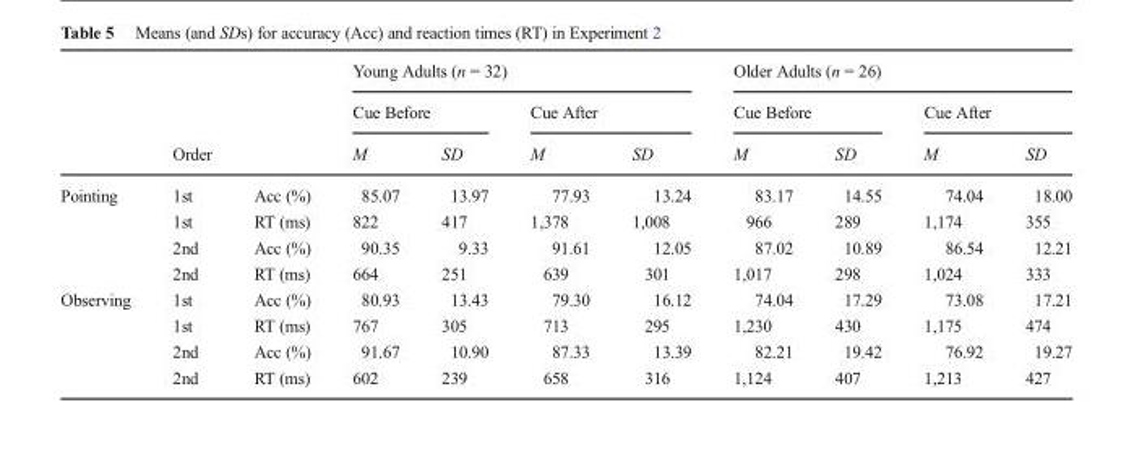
<table><thead><tr><td rowspan="3"></td><td rowspan="3">Order</td><td rowspan="3"></td><td colspan="4">Young Adults (n = 32)</td><td colspan="4">Older Adults (n = 26)</td></tr><tr><td colspan="2">Cue Before</td><td colspan="2">Cue After</td><td colspan="2">Cue Before</td><td colspan="2">Cue After</td></tr><tr><td>M</td><td>SD</td><td>M</td><td>SD</td><td>M</td><td>SD</td><td>M</td><td>SD</td></tr></thead><tbody><tr><td rowspan="4">Pointing</td><td>1st</td><td>Acc (%)</td><td>85.07</td><td>13.97</td><td>77.93</td><td>13.24</td><td>83.17</td><td>14.55</td><td>74.04</td><td>18.00</td></tr><tr><td>1st</td><td>RT (ms)</td><td>822</td><td>417</td><td>1,378</td><td>1,008</td><td>966</td><td>289</td><td>1,174</td><td>355</td></tr><tr><td>2nd</td><td>Acc (%)</td><td>90.35</td><td>9.33</td><td>91.61</td><td>12.05</td><td>87.02</td><td>10.89</td><td>86.54</td><td>12.21</td></tr><tr><td>2nd</td><td>RT (ms)</td><td>664</td><td>251</td><td>639</td><td>301</td><td>1,017</td><td>298</td><td>1,024</td><td>333</td></tr><tr><td rowspan="4">Observing</td><td>1st</td><td>Acc (%)</td><td>80.93</td><td>13.43</td><td>79.30</td><td>16.12</td><td>74.04</td><td>17.29</td><td>73.08</td><td>17.21</td></tr><tr><td>1st</td><td>RT (ms)</td><td>767</td><td>305</td><td>713</td><td>295</td><td>1,230</td><td>430</td><td>1,175</td><td>474</td></tr><tr><td>2nd</td><td>Acc (%)</td><td>91.67</td><td>10.90</td><td>87.33</td><td>13.39</td><td>82.21</td><td>19.42</td><td>76.92</td><td>19.27</td></tr><tr><td>2nd</td><td>RT (ms)</td><td>602</td><td>239</td><td>658</td><td>316</td><td>1,124</td><td>407</td><td>1,213</td><td>427</td></tr></tbody></table>